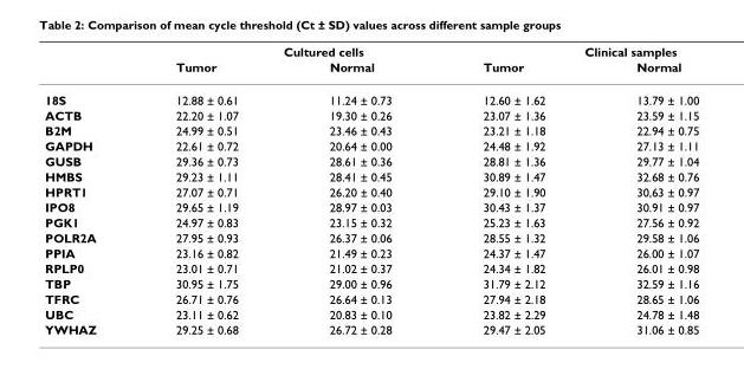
<table><thead><tr><td rowspan="2"></td><td colspan="2">Cultured cells</td><td colspan="2">Clinical samples</td></tr><tr><td>Tumor</td><td>Normal</td><td>Tumor</td><td>Normal</td></tr></thead><tbody><tr><td>18S</td><td>12.88 ± 0.61</td><td>11.24 ± 0.73</td><td>12.60 ± 1.62</td><td>13.79 ± 1.00</td></tr><tr><td>ACTB</td><td>22.20 ± 1.07</td><td>19.30 ± 0.26</td><td>23.07 ± 1.36</td><td>23.59 ± 1.15</td></tr><tr><td>B2M</td><td>24.99 ± 0.51</td><td>23.46 ± 0.43</td><td>23.21 ± 1.18</td><td>22.94 ± 0.75</td></tr><tr><td>GAPDH</td><td>22.61 ± 0.72</td><td>20.64 ± 0.00</td><td>24.48 ± 1.92</td><td>27.13 ± 1.11</td></tr><tr><td>GUSB</td><td>29.36 ± 0.73</td><td>28.61 ± 0.36</td><td>28.81 ± 1.36</td><td>29.77 ± 1.04</td></tr><tr><td>HMBS</td><td>29.23 ± 1.11</td><td>28.41 ± 0.45</td><td>30.89 ± 1.47</td><td>32.68 ± 0.76</td></tr><tr><td>HPRT1</td><td>27.07 ± 0.71</td><td>26.20 ± 0.40</td><td>29.10 ± 1.90</td><td>30,63 ± 0.97</td></tr><tr><td>IPO8</td><td>29.65 ± 1.19</td><td>28.97 ± 0.03</td><td>30.43 ± 1.37</td><td>30.91 ± 0.97</td></tr><tr><td>PGK1</td><td>24.97 ± 0.83</td><td>23.15 ± 0.32</td><td>25.23 ± 1.63</td><td>27.56 ± 0.92</td></tr><tr><td>POLR2A</td><td>27.95 ± 0.93</td><td>26.37 ± 0.06</td><td>28.55 ± 1.32</td><td>29.58 ± 1.06</td></tr><tr><td>PPIA</td><td>23.16 ± 0.82</td><td>21.49 ± 0.23</td><td>24.37 ± 1.47</td><td>26.00 ± 1.07</td></tr><tr><td>RPLP0</td><td>23.01 ± 0.71</td><td>21.02 ± 0.37</td><td>24.34 ± 1.82</td><td>26.01 ± 0.98</td></tr><tr><td>TBP</td><td>30.95 ± 1.75</td><td>29.00 ± 0.96</td><td>31.79 ± 2.12</td><td>32.59 ± 1.16</td></tr><tr><td>TFRC</td><td>26.71 ± 0.76</td><td>26.64 ± 0.13</td><td>27.94 ± 2.18</td><td>28.65 ± 1.06</td></tr><tr><td>UBC</td><td>23.11 ± 0.62</td><td>20.83 ± 0.10</td><td>23.82 ± 2.29</td><td>24.78 ± 1.48</td></tr><tr><td>YWHAZ</td><td>29.25 ± 0.68</td><td>26.72 ± 0.28</td><td>29.47 ± 2.05</td><td>31.06 ± 0.85</td></tr></tbody></table>